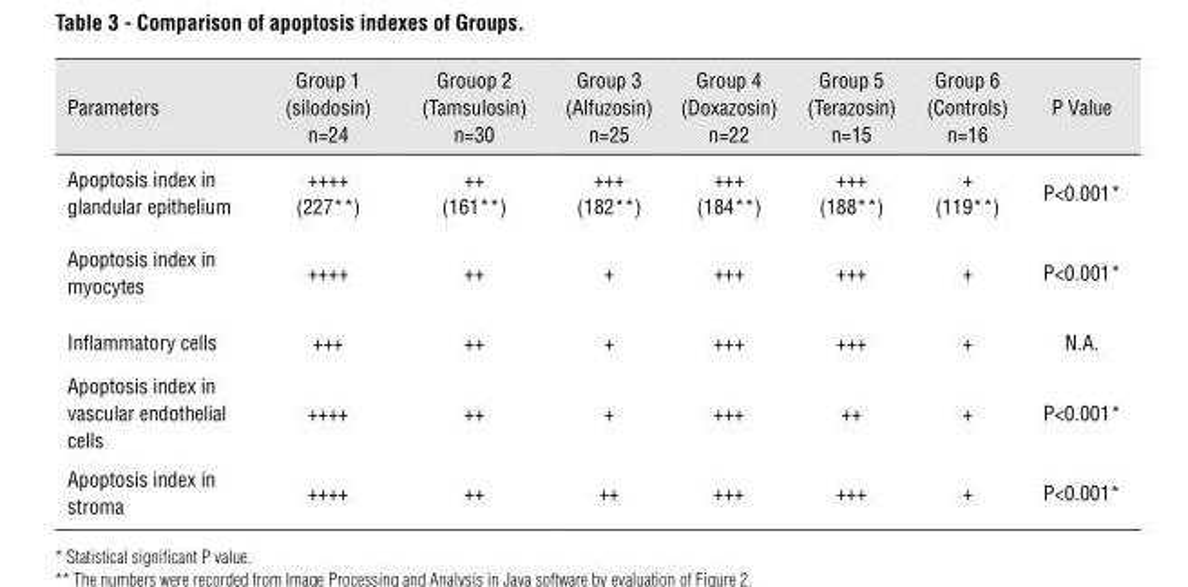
<table><thead><tr><td>Parameters</td><td>Group 1 (silodosin) n=24</td><td>Grouop 2 (Tamsulosin) n=30</td><td>Group 3 (Alfuzosin) n=25</td><td>Group 4 (Doxazosin) n=22</td><td>Group 5 (Terazosin) n=15</td><td>Group 6 (Controls) n=16</td><td>P Value</td></tr></thead><tbody><tr><td>Apoptosis index in glandular epithelium</td><td>++++ (227**)</td><td>++ (161**)</td><td>+++ (182**)</td><td>+++ (184**)</td><td>+++ (188**)</td><td>+ (119**)</td><td>P&lt;0.001*</td></tr><tr><td>Apoptosis index in myocytes</td><td>++++</td><td>++</td><td>+</td><td>+++</td><td>+++</td><td>+</td><td>P&lt;0.001*</td></tr><tr><td>Inflammatory cells</td><td>+++</td><td>++</td><td>+</td><td>+++</td><td>+++</td><td>+</td><td>N.A.</td></tr><tr><td>Apoptosis index in vascular endothelial cells</td><td>++++</td><td>++</td><td>+</td><td>+++</td><td>++</td><td>+</td><td>P&lt;0.001*</td></tr><tr><td>Apoptosis index in stroma</td><td>++++</td><td>++</td><td>++</td><td>+++</td><td>+++</td><td>+</td><td>P&lt;0.001*</td></tr></tbody></table>